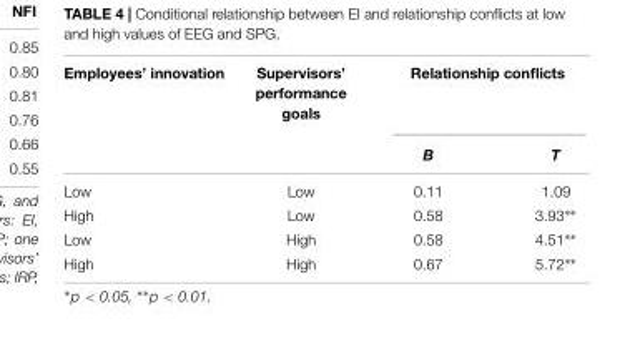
<table><thead><tr><td rowspan="2">Employees’ innovation</td><td rowspan="2">Supervisors’ performance goals</td><td colspan="2">Relationship conflicts</td></tr><tr><td>B</td><td>T</td></tr></thead><tbody><tr><td>Low</td><td>Low</td><td>0.11</td><td>1.09</td></tr><tr><td>High</td><td>Low</td><td>0.58</td><td>3.93∗∗</td></tr><tr><td>Low</td><td>High</td><td>0.58</td><td>4.51∗∗</td></tr><tr><td>High</td><td>High</td><td>0.67</td><td>5.72∗∗</td></tr></tbody></table>